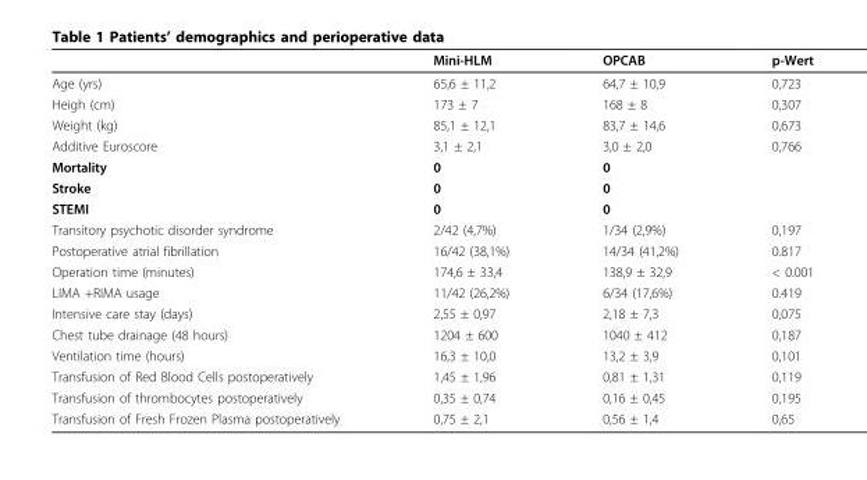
<table><thead><tr><td></td><td>Mini-HLM</td><td>OPCAB</td><td>p-Wert</td></tr></thead><tbody><tr><td>Age (yrs)</td><td>65,6 ± 11,2</td><td>64,7 ± 10,9</td><td>0,723</td></tr><tr><td>Heigh (cm)</td><td>173 ± 7</td><td>168 ± 8</td><td>0,307</td></tr><tr><td>Weight (kg)</td><td>85,1 ± 12,1</td><td>83,7 ± 14,6</td><td>0,673</td></tr><tr><td>Additive Euroscore</td><td>3,1 ± 2,1</td><td>3,0 ± 2,0</td><td>0,766</td></tr><tr><td>Mortality</td><td>0</td><td>0</td><td></td></tr><tr><td>Stroke</td><td>0</td><td>0</td><td></td></tr><tr><td>STEMI</td><td>0</td><td>0</td><td></td></tr><tr><td>Transitory psychotic disorder syndrome</td><td>2/42 (4,7%)</td><td>1/34 (2,9%)</td><td>0,197</td></tr><tr><td>Postoperative atrial fibrillation</td><td>16/42 (38,1%)</td><td>14/34 (41,2%)</td><td>0.817</td></tr><tr><td>Operation time (minutes)</td><td>174,6 ± 33,4</td><td>138,9 ± 32,9</td><td>&lt; 0.001</td></tr><tr><td>LIMA +RIMA usage</td><td>11/42 (26,2%)</td><td>6/34 (17,6%)</td><td>0.419</td></tr><tr><td>Intensive care stay (days)</td><td>2,55 ± 0,97</td><td>2,18 ± 7,3</td><td>0,075</td></tr><tr><td>Chest tube drainage (48 hours)</td><td>1204 ± 600</td><td>1040 ± 412</td><td>0,187</td></tr><tr><td>Ventilation time (hours)</td><td>16,3 ± 10,0</td><td>13,2 ± 3,9</td><td>0,101</td></tr><tr><td>Transfusion of Red Blood Cells postoperatively</td><td>1,45 ± 1,96</td><td>0,81 ± 1,31</td><td>0,119</td></tr><tr><td>Transfusion of thrombocytes postoperatively</td><td>0,35 ± 0,74</td><td>0,16 ± 0,45</td><td>0,195</td></tr><tr><td>Transfusion of Fresh Frozen Plasma postoperatively</td><td>0,75 ± 2,1</td><td>0,56 ± 1,4</td><td>0,65</td></tr></tbody></table>